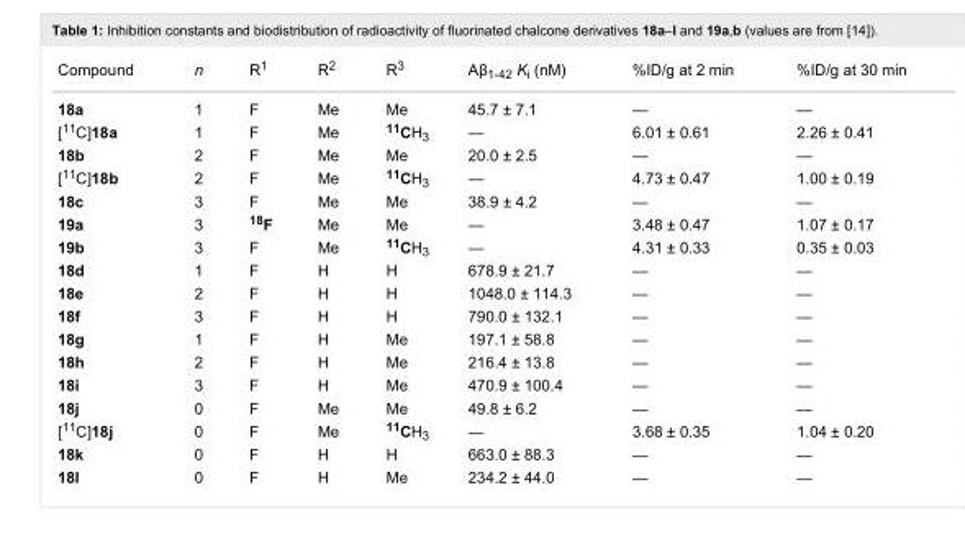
<table><tbody><tr><td>Compound</td><td>n</td><td>R<sup>1</sup></td><td>R<sup>2</sup></td><td>R<sup>3</sup></td><td>Aβ<sub>1-42</sub> K<sub>i</sub> (nM)</td><td>%ID/g at 2 min</td><td>%ID/g at 30 min</td></tr><tr><td>18a</td><td>1</td><td>F</td><td>Me</td><td>Me</td><td>45.7 ± 7.1</td><td>—</td><td>—</td></tr><tr><td>[<sup>11</sup>C]18a</td><td>1</td><td>F</td><td>Me</td><td><sup>11</sup>CH<sub>3</sub></td><td>—</td><td>6.01 ± 0.61</td><td>2.26 ± 0.41</td></tr><tr><td>18b</td><td>2</td><td>F</td><td>Me</td><td>Me</td><td>20.0 ± 2.5</td><td>—</td><td>—</td></tr><tr><td>[<sup>11</sup>C]18b</td><td>2</td><td>F</td><td>Me</td><td><sup>11</sup>CH<sub>3</sub></td><td>—</td><td>4.73 ± 0.47</td><td>1.00 ± 0.19</td></tr><tr><td>18c</td><td>3</td><td>F</td><td>Me</td><td>Me</td><td>38.9 ± 4.2</td><td>—</td><td>—</td></tr><tr><td>19a</td><td>3</td><td><sup>18</sup>F</td><td>Me</td><td>Me</td><td>—</td><td>3.48 ± 0.47</td><td>1.07 ± 0.17</td></tr><tr><td>19b</td><td>3</td><td>F</td><td>Me</td><td><sup>11</sup>CH<sub>3</sub></td><td>—</td><td>4.31 ± 0.33</td><td>0.35 ± 0.03</td></tr><tr><td>18d</td><td>1</td><td>F</td><td>H</td><td>H</td><td>678.9 ± 21.7</td><td>—</td><td>—</td></tr><tr><td>18e</td><td>2</td><td>F</td><td>H</td><td>H</td><td>1048.0 ± 114.3</td><td>—</td><td>—</td></tr><tr><td>18f</td><td>3</td><td>F</td><td>H</td><td>H</td><td>790.0 ± 132.1</td><td>—</td><td>—</td></tr><tr><td>18g</td><td>1</td><td>F</td><td>H</td><td>Me</td><td>197.1 ± 58.8</td><td>—</td><td>—</td></tr><tr><td>18h</td><td>2</td><td>F</td><td>H</td><td>Me</td><td>216.4 ± 13.8</td><td>—</td><td>—</td></tr><tr><td>18i</td><td>3</td><td>F</td><td>H</td><td>Me</td><td>470.9 ± 100.4</td><td>—</td><td>—</td></tr><tr><td>18j</td><td>0</td><td>F</td><td>Me</td><td>Me</td><td>49.8 ± 6.2</td><td>—</td><td>—</td></tr><tr><td>[<sup>11</sup>C]18j</td><td>0</td><td>F</td><td>Me</td><td><sup>11</sup>CH<sub>3</sub></td><td>—</td><td>3.68 ± 0.35</td><td>1.04 ± 0.20</td></tr><tr><td>18k</td><td>0</td><td>F</td><td>H</td><td>H</td><td>663.0 ± 88.3</td><td>—</td><td>—</td></tr><tr><td>18l</td><td>0</td><td>F</td><td>H</td><td>Me</td><td>234.2 ± 44.0</td><td>—</td><td>—</td></tr></tbody></table>